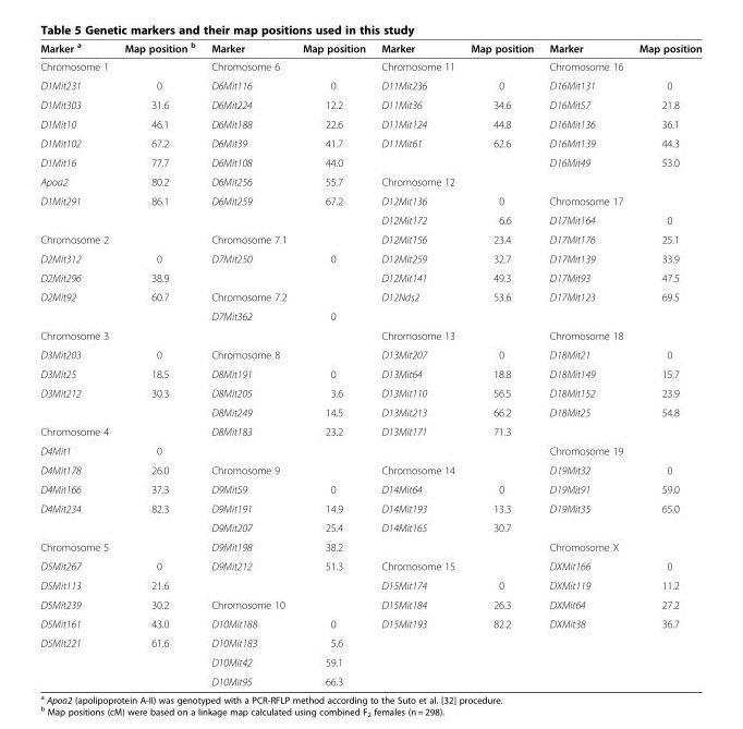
<table><thead><tr><td>Marker <sup>a</sup></td><td>Map position <sup>b</sup></td><td>Marker</td><td>Map position</td><td>Marker</td><td>Map position</td><td>Marker</td><td>Map position</td></tr></thead><tbody><tr><td>Chromosome 1</td><td></td><td>Chromosome 6</td><td></td><td>Chromosome 11</td><td></td><td>Chromosome 16</td><td></td></tr><tr><td>D1Mit231</td><td>0</td><td>D6Mit116</td><td>0</td><td>D11Mit236</td><td>0</td><td>D16Mit131</td><td>0</td></tr><tr><td>D1Mit303</td><td>31.6</td><td>D6Mit224</td><td>12.2</td><td>D11Mit36</td><td>34.6</td><td>D16Mit57</td><td>21.8</td></tr><tr><td>D1Mit10</td><td>46.1</td><td>D6Mit188</td><td>22.6</td><td>D11Mit124</td><td>44.8</td><td>D16Mit136</td><td>36.1</td></tr><tr><td>D1Mit102</td><td>67.2</td><td>D6Mit39</td><td>41.7</td><td>D11Mit61</td><td>62.6</td><td>D16Mit139</td><td>44.3</td></tr><tr><td>D1Mit16</td><td>77.7</td><td>D6Mit108</td><td>44.0</td><td></td><td></td><td>D16Mit49</td><td>53.0</td></tr><tr><td>Apoa2</td><td>80.2</td><td>D6Mit256</td><td>55.7</td><td>Chromosome 12</td><td></td><td></td><td></td></tr><tr><td rowspan="2">D1Mit291</td><td>86.1</td><td>D6Mit259</td><td>67.2</td><td>D12Mit136</td><td>0</td><td>Chromosome 17</td><td></td></tr><tr><td></td><td></td><td></td><td>D12Mit172</td><td>6.6</td><td>D17Mit164</td><td>0</td></tr><tr><td>Chromosome 2</td><td></td><td>Chromosome 7.1</td><td></td><td>D12Mit156</td><td>23.4</td><td>D17Mit176</td><td>25.1</td></tr><tr><td>D2Mit312</td><td>0</td><td>D7Mit250</td><td>0</td><td>D12Mit259</td><td>32.7</td><td>D17Mit139</td><td>33.9</td></tr><tr><td>D2Mit296</td><td>38.9</td><td></td><td></td><td>D12Mit141</td><td>49.3</td><td>D17Mit93</td><td>47.5</td></tr><tr><td rowspan="2">D2Mit92</td><td>60.7</td><td>Chromosome 7.2</td><td></td><td>D12Nds2</td><td>53.6</td><td>D17Mit123</td><td>69.5</td></tr><tr><td></td><td>D7Mit362</td><td>0</td><td></td><td></td><td></td><td></td></tr><tr><td>Chromosome 3</td><td></td><td></td><td></td><td>Chromosome 13</td><td></td><td>Chromosome 18</td><td></td></tr><tr><td>D3Mit203</td><td>0</td><td>Chromosome 8</td><td></td><td>D13Mit207</td><td>0</td><td>D18Mit21</td><td>0</td></tr><tr><td>D3Mit25</td><td>18.5</td><td>D8Mit191</td><td>0</td><td>D13Mit64</td><td>18.8</td><td>D18Mit149</td><td>15.7</td></tr><tr><td rowspan="2">D3Mit212</td><td>30.3</td><td>D8Mit205</td><td>3.6</td><td>D13Mit110</td><td>56.5</td><td>D18Mit152</td><td>23.9</td></tr><tr><td></td><td>D8Mit249</td><td>14.5</td><td>D13Mit213</td><td>66.2</td><td>D18Mit25</td><td>54.8</td></tr><tr><td>Chromosome 4</td><td></td><td>D8Mit183</td><td>23.2</td><td>D13Mit171</td><td>71.3</td><td></td><td></td></tr><tr><td>D4Mit1</td><td>0</td><td></td><td></td><td></td><td></td><td>Chromosome 19</td><td></td></tr><tr><td>D4Mit178</td><td>26.0</td><td>Chromosome 9</td><td></td><td>Chromosome 14</td><td></td><td>D19Mit32</td><td>0</td></tr><tr><td>D4Mit166</td><td>37.3</td><td>D9Mit59</td><td>0</td><td>D14Mit64</td><td>0</td><td>D19Mit91</td><td>59.0</td></tr><tr><td rowspan="2">D4Mit234</td><td>82.3</td><td>D9Mit191</td><td>14.9</td><td>D14Mit193</td><td>13.3</td><td>D19Mit35</td><td>65.0</td></tr><tr><td></td><td>D9Mit207</td><td>25.4</td><td>D14Mit165</td><td>30.7</td><td></td><td></td></tr><tr><td>Chromosome 5</td><td></td><td>D9Mit198</td><td>38.2</td><td></td><td></td><td>Chromosome X</td><td></td></tr><tr><td>D5Mit267</td><td>0</td><td>D9Mit212</td><td>51.3</td><td>Chromosome 15</td><td></td><td>DXMit166</td><td>0</td></tr><tr><td>D5Mit113</td><td>21.6</td><td></td><td></td><td>D15Mit174</td><td>0</td><td>DXMit119</td><td>11.2</td></tr><tr><td>D5Mit239</td><td>30.2</td><td>Chromosome 10</td><td></td><td>D15Mit184</td><td>26.3</td><td>DXMit64</td><td>27.2</td></tr><tr><td>D5Mit161</td><td>43.0</td><td>D10Mit188</td><td>0</td><td>D15Mit193</td><td>82.2</td><td>DXMit38</td><td>36.7</td></tr><tr><td rowspan="3">D5Mit221</td><td>61.6</td><td>D10Mit183</td><td>5.6</td><td></td><td></td><td></td><td></td></tr><tr><td></td><td>D10Mit42</td><td>59.1</td><td></td><td></td><td></td><td></td></tr><tr><td></td><td>D10Mit95</td><td>66.3</td><td></td><td></td><td></td><td></td></tr></tbody></table>